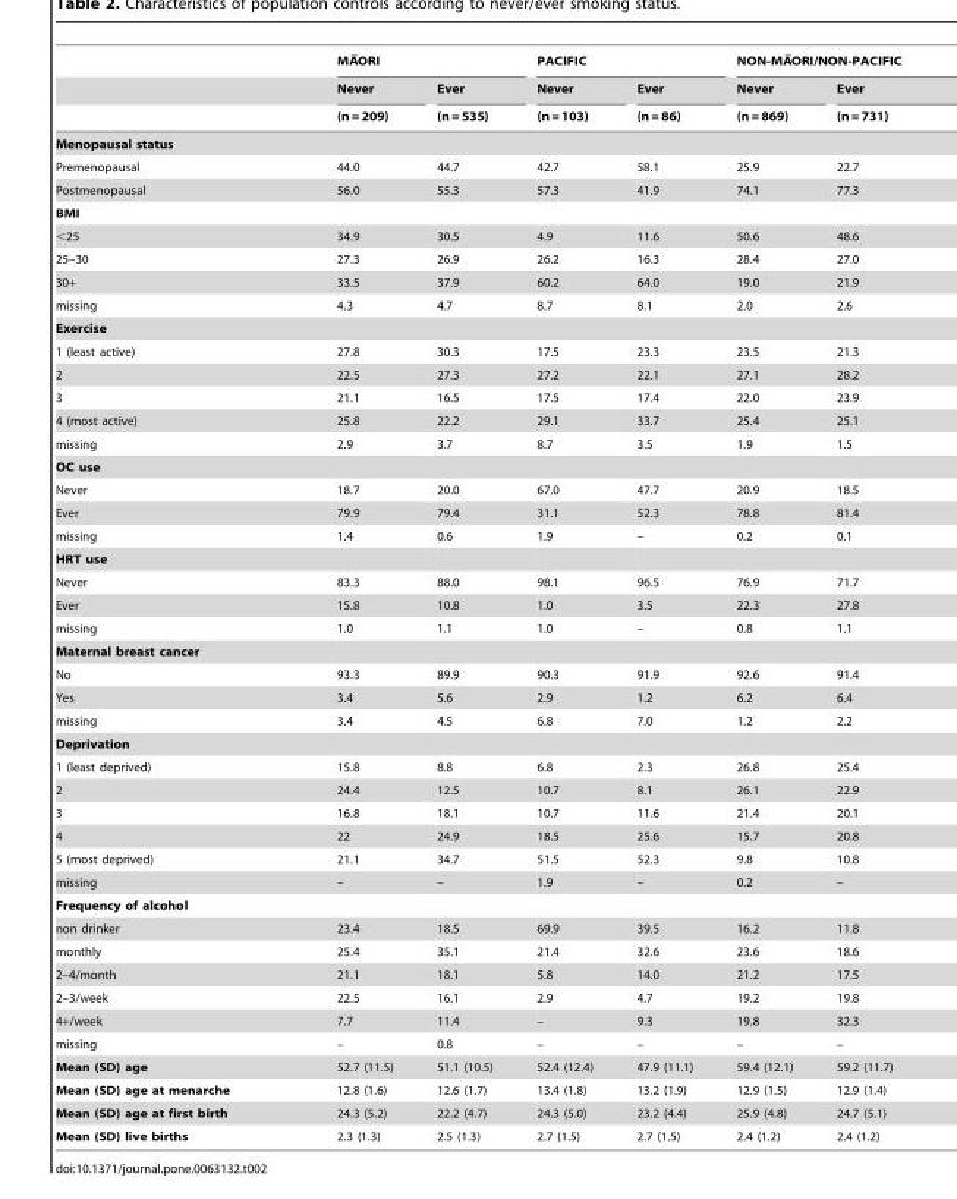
<table><thead><tr><td rowspan="3"></td><td colspan="2">MA ORI</td><td colspan="2">PACIFIC</td><td colspan="2">NON-MA ORI/NON-PACIFIC</td></tr><tr><td rowspan="2">Never (n = 209)</td><td rowspan="2">Ever (n = 535)</td><td rowspan="2">Never (n = 103)</td><td rowspan="2">Ever (n = 86)</td><td rowspan="2">Never (n = 869)</td><td rowspan="2">Ever (n = 731)</td></tr><tr></tr></thead><tbody><tr><td colspan="7">Menopausal status</td></tr><tr><td>Premenopausal</td><td>44.0</td><td>44.7</td><td>42.7</td><td>58.1</td><td>25.9</td><td>22.7</td></tr><tr><td>Postmenopausal</td><td>56.0</td><td>55.3</td><td>57.3</td><td>41.9</td><td>74.1</td><td>77.3</td></tr><tr><td colspan="7">BMI</td></tr><tr><td>&lt;25</td><td>34.9</td><td>30.5</td><td>4.9</td><td>11.6</td><td>50.6</td><td>48.6</td></tr><tr><td>25–30</td><td>27.3</td><td>26.9</td><td>26.2</td><td>16.3</td><td>28.4</td><td>27.0</td></tr><tr><td>30+</td><td>33.5</td><td>37.9</td><td>60.2</td><td>64.0</td><td>19.0</td><td>21.9</td></tr><tr><td>missing</td><td>4.3</td><td>4.7</td><td>8.7</td><td>8.1</td><td>2.0</td><td>2.6</td></tr><tr><td colspan="7">Exercise</td></tr><tr><td>1 (least active)</td><td>27.8</td><td>30.3</td><td>17.5</td><td>23.3</td><td>23.5</td><td>21.3</td></tr><tr><td>2</td><td>22.5</td><td>27.3</td><td>27.2</td><td>22.1</td><td>27.1</td><td>28.2</td></tr><tr><td>3</td><td>21.1</td><td>16.5</td><td>17.5</td><td>17.4</td><td>22.0</td><td>23.9</td></tr><tr><td>4 (most active)</td><td>25.8</td><td>22.2</td><td>29.1</td><td>33.7</td><td>25.4</td><td>25.1</td></tr><tr><td>missing</td><td>2.9</td><td>3.7</td><td>8.7</td><td>3.5</td><td>1.9</td><td>1.5</td></tr><tr><td colspan="7">OC use</td></tr><tr><td>Never</td><td>18.7</td><td>20.0</td><td>67.0</td><td>47.7</td><td>20.9</td><td>18.5</td></tr><tr><td>Ever</td><td>79.9</td><td>79.4</td><td>31.1</td><td>52.3</td><td>78.8</td><td>81.4</td></tr><tr><td>missing</td><td>1.4</td><td>0.6</td><td>1.9</td><td>–</td><td>0.2</td><td>0.1</td></tr><tr><td colspan="7">HRT use</td></tr><tr><td>Never</td><td>83.3</td><td>88.0</td><td>98.1</td><td>96.5</td><td>76.9</td><td>71.7</td></tr><tr><td>Ever</td><td>15.8</td><td>10.8</td><td>1.0</td><td>3.5</td><td>22.3</td><td>27.8</td></tr><tr><td>missing</td><td>1.0</td><td>1.1</td><td>1.0</td><td>–</td><td>0.8</td><td>1.1</td></tr><tr><td colspan="7">Maternal breast cancer</td></tr><tr><td>No</td><td>93.3</td><td>89.9</td><td>90.3</td><td>91.9</td><td>92.6</td><td>91.4</td></tr><tr><td>Yes</td><td>3.4</td><td>5.6</td><td>2.9</td><td>1.2</td><td>6.2</td><td>6.4</td></tr><tr><td>missing</td><td>3.4</td><td>4.5</td><td>6.8</td><td>7.0</td><td>1.2</td><td>2.2</td></tr><tr><td colspan="7">Deprivation</td></tr><tr><td>1 (least deprived)</td><td>15.8</td><td>8.8</td><td>6.8</td><td>2.3</td><td>26.8</td><td>25.4</td></tr><tr><td>2</td><td>24.4</td><td>12.5</td><td>10.7</td><td>8.1</td><td>26.1</td><td>22.9</td></tr><tr><td>3</td><td>16.8</td><td>18.1</td><td>10.7</td><td>11.6</td><td>21.4</td><td>20.1</td></tr><tr><td>4</td><td>22</td><td>24.9</td><td>18.5</td><td>25.6</td><td>15.7</td><td>20.8</td></tr><tr><td>5 (most deprived)</td><td>21.1</td><td>34.7</td><td>51.5</td><td>52.3</td><td>9.8</td><td>10.8</td></tr><tr><td>missing</td><td>–</td><td>–</td><td>1.9</td><td>–</td><td>0.2</td><td>–</td></tr><tr><td colspan="7">Frequency of alcohol</td></tr><tr><td>non drinker</td><td>23.4</td><td>18.5</td><td>69.9</td><td>39.5</td><td>16.2</td><td>11.8</td></tr><tr><td>monthly</td><td>25.4</td><td>35.1</td><td>21.4</td><td>32.6</td><td>23.6</td><td>18.6</td></tr><tr><td>2–4/month</td><td>21.1</td><td>18.1</td><td>5.8</td><td>14.0</td><td>21.2</td><td>17.5</td></tr><tr><td>2–3/week</td><td>22.5</td><td>16.1</td><td>2.9</td><td>4.7</td><td>19.2</td><td>19.8</td></tr><tr><td>4+/week</td><td>7.7</td><td>11.4</td><td>–</td><td>9.3</td><td>19.8</td><td>32.3</td></tr><tr><td>missing</td><td>–</td><td>0.8</td><td>–</td><td>–</td><td>–</td><td>–</td></tr><tr><td>Mean (SD) age</td><td>52.7 (11.5)</td><td>51.1 (10.5)</td><td>52.4 (12.4)</td><td>47.9 (11.1)</td><td>59.4 (12.1)</td><td>59.2 (11.7)</td></tr><tr><td>Mean (SD) age at menarche</td><td>12.8 (1.6)</td><td>12.6 (1.7)</td><td>13.4 (1.8)</td><td>13.2 (1.9)</td><td>12.9 (1.5)</td><td>12.9 (1.4)</td></tr><tr><td>Mean (SD) age at first birth</td><td>24.3 (5.2)</td><td>22.2 (4.7)</td><td>24.3 (5.0)</td><td>23.2 (4.4)</td><td>25.9 (4.8)</td><td>24.7 (5.1)</td></tr><tr><td>Mean (SD) live births</td><td>2.3 (1.3)</td><td>2.5 (1.3)</td><td>2.7 (1.5)</td><td>2.7 (1.5)</td><td>2.4 (1.2)</td><td>2.4 (1.2)</td></tr></tbody></table>